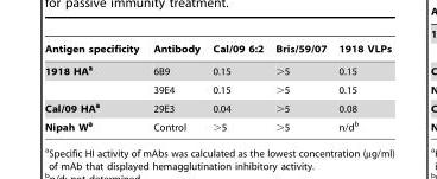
<table><thead><tr><td>Antigen specificity</td><td>Antibody</td><td>Cal/09 6:2</td><td>Bris/59/07</td><td>1918 VLPs</td></tr></thead><tbody><tr><td rowspan="2">1918 HAa</td><td>6B9</td><td>0.15</td><td>&gt;5</td><td>0.15</td></tr><tr><td>39E4</td><td>0.15</td><td>&gt;5</td><td>0.15</td></tr><tr><td>Cal/09 HAa</td><td>29E3</td><td>0.04</td><td>&gt;5</td><td>0.08</td></tr><tr><td>Nipah Wa</td><td>Control</td><td>&gt;5</td><td>&gt;5</td><td>n/d<sup>b</sup></td></tr></tbody></table>